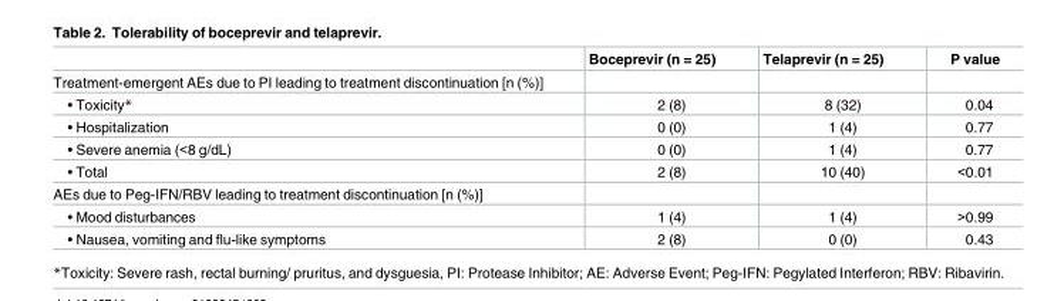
<table><thead><tr><td></td><td>Boceprevir (n = 25)</td><td>Telaprevir (n = 25)</td><td>P value</td></tr></thead><tbody><tr><td colspan="4">Treatment-emergent AEs due to PI leading to treatment discontinuation [n (%)]</td></tr><tr><td>• Toxicity*</td><td>2 (8)</td><td>8 (32)</td><td>0.04</td></tr><tr><td>• Hospitalization</td><td>0 (0)</td><td>1 (4)</td><td>0.77</td></tr><tr><td>• Severe anemia (&lt;8 g/dL)</td><td>0 (0)</td><td>1 (4)</td><td>0.77</td></tr><tr><td>• Total</td><td>2 (8)</td><td>10 (40)</td><td>&lt;0.01</td></tr><tr><td colspan="4">AEs due to Peg-IFN/RBV leading to treatment discontinuation [n (%)]</td></tr><tr><td>• Mood disturbances</td><td>1 (4)</td><td>1 (4)</td><td>&gt;0.99</td></tr><tr><td>• Nausea, vomiting and flu-like symptoms</td><td>2 (8)</td><td>0 (0)</td><td>0.43</td></tr></tbody></table>